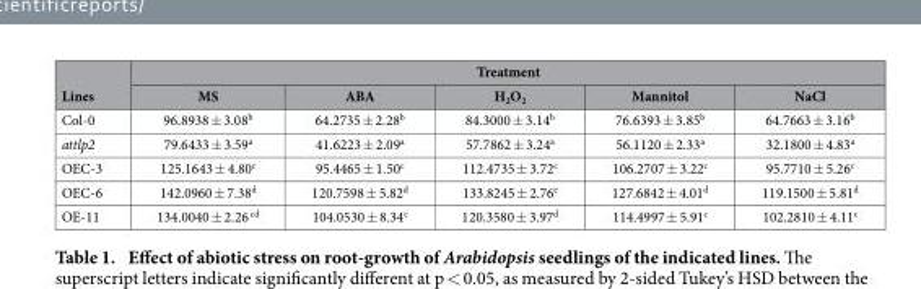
<table><thead><tr><td rowspan="2">Lines</td><td colspan="5">Treatment</td></tr><tr><td>MS</td><td>ABA</td><td>H<sub>2</sub>O<sub>2</sub></td><td>Mannitol</td><td>NaCl</td></tr></thead><tbody><tr><td>Col-0</td><td>96.8938 ± 3.08<sup>b</sup></td><td>64.2735 ± 2.28<sup>b</sup></td><td>84.3000 ± 3.14<sup>b</sup></td><td>76.6393 ± 3.85<sup>b</sup></td><td>64.7663 ± 3.16<sup>b</sup></td></tr><tr><td>attlp2</td><td>79.6433 ± 3.59<sup>a</sup></td><td>41.6223 ± 2.09<sup>a</sup></td><td>57.7862 ± 3.24<sup>a</sup></td><td>56.1120 ± 2.33<sup>a</sup></td><td>32.1800 ± 4.83<sup>a</sup></td></tr><tr><td>OEC-3</td><td>125.1643 ± 4.80<sup>c</sup></td><td>95.4465 ± 1.50<sup>c</sup></td><td>112.4735 ± 3.72<sup>c</sup></td><td>106.2707 ± 3.22<sup>c</sup></td><td>95.7710 ± 5.26<sup>c</sup></td></tr><tr><td>OEC-6</td><td>142.0960 ± 7.38<sup>d</sup></td><td>120.7598 ± 5.82<sup>d</sup></td><td>133.8245 ± 2.76<sup>e</sup></td><td>127.6842 ± 4.01<sup>d</sup></td><td>119.1500 ± 5.81<sup>d</sup></td></tr><tr><td>OE-11</td><td>134.0040 ± 2.26 <sup>cd</sup></td><td>104.0530 ± 8.34<sup>c</sup></td><td>120.3580 ± 3.97<sup>d</sup></td><td>114.4997 ± 5.91<sup>c</sup></td><td>102.2810 ± 4.11<sup>c</sup></td></tr></tbody></table>